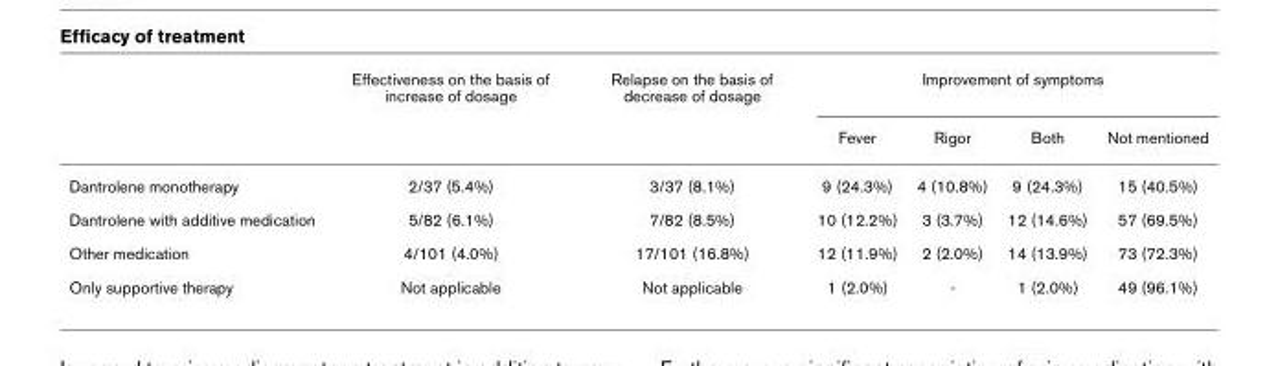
<table><thead><tr><td rowspan="2"></td><td rowspan="2">Effectiveness on the basis of increase of dosage</td><td rowspan="2">Relapse on the basis of decrease of dosage</td><td colspan="4">Improvement of symptoms</td></tr><tr><td>Fever</td><td>Rigor</td><td>Both</td><td>Not mentioned</td></tr></thead><tbody><tr><td>Dantrolene monotherapy</td><td>2/37 (5.4%)</td><td>3/37 (8.1%)</td><td>9 (24.3%)</td><td>4 (10.8%)</td><td>9 (24.3%)</td><td>15 (40.5%)</td></tr><tr><td>Dantrolene with additive medication</td><td>5/82 (6.1%)</td><td>7/82 (8.5%)</td><td>10 (12.2%)</td><td>3 (3.7%)</td><td>12 (14.6%)</td><td>57 (69.5%)</td></tr><tr><td>Other medication</td><td>4/101 (4.0%)</td><td>17/101 (16.8%)</td><td>12 (11.9%)</td><td>2 (2.0%)</td><td>14 (13.9%)</td><td>73 (72.3%)</td></tr><tr><td>Only supportive therapy</td><td>Not applicable</td><td>Not applicable</td><td>1 (2.0%)</td><td>-</td><td>1 (2.0%)</td><td>49 (96.1%)</td></tr></tbody></table>